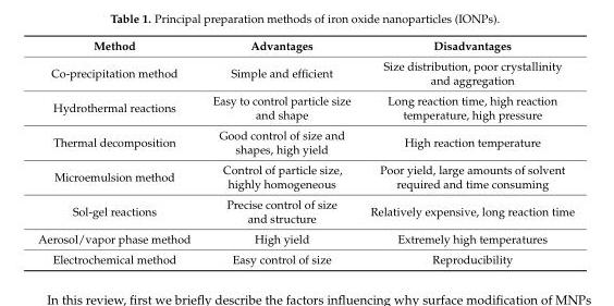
<table><thead><tr><td>Method</td><td>Advantages</td><td>Disadvantages</td></tr></thead><tbody><tr><td>Co-precipitation method</td><td>Simple and efficient</td><td>Size distribution, poor crystallinity and aggregation</td></tr><tr><td>Hydrothermal reactions</td><td>Easy to control particle size and shape</td><td>Long reaction time, high reaction temperature, high pressure</td></tr><tr><td>Thermal decomposition</td><td>Good control of size and shapes, high yield</td><td>High reaction temperature</td></tr><tr><td>Microemulsion method</td><td>Control of particle size, highly homogeneous</td><td>Poor yield, large amounts of solvent required and time consuming</td></tr><tr><td>Sol-gel reactions</td><td>Precise control of size and structure</td><td>Relatively expensive, long reaction time</td></tr><tr><td>Aerosol/vapor phase method</td><td>High yield</td><td>Extremely high temperatures</td></tr><tr><td>Electrochemical method</td><td>Easy control of size</td><td>Reproducibility</td></tr></tbody></table>